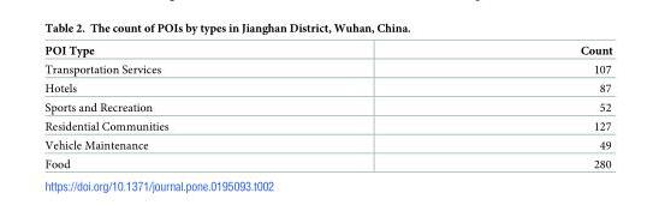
<table><thead><tr><td>POI Type</td><td>Count</td></tr></thead><tbody><tr><td>Transportation Services</td><td>107</td></tr><tr><td>Hotels</td><td>87</td></tr><tr><td>Sports and Recreation</td><td>52</td></tr><tr><td>Residential Communities</td><td>127</td></tr><tr><td>Vehicle Maintenance</td><td>49</td></tr><tr><td>Food</td><td>280</td></tr></tbody></table>